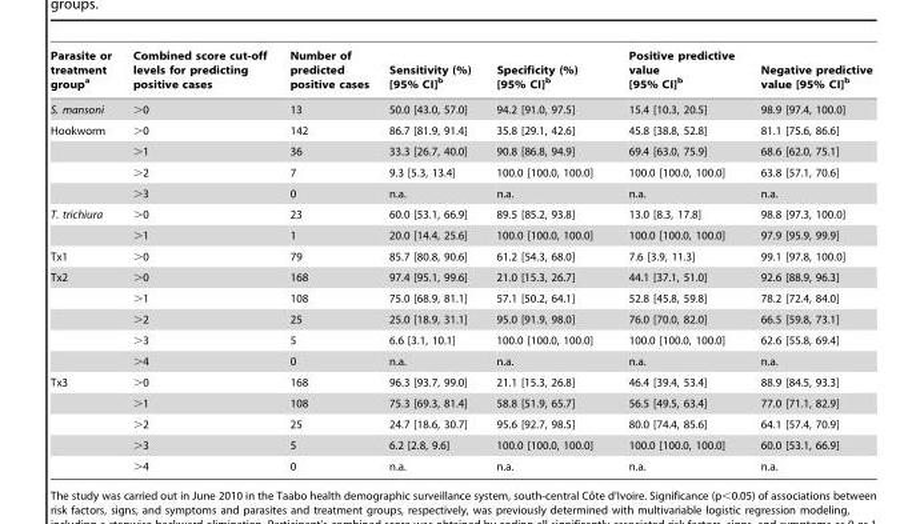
<table><thead><tr><td>Parasite or treatment group<sup>a</sup></td><td>Combined score cut-off levels for predicting positive cases</td><td>Number of predicted positive cases</td><td>Sensitivity (%) [95% CI]<sup>b</sup></td><td>Specificity (%) [95% CI]<sup>b</sup></td><td>Positive predictive value [95% CI]<sup>b</sup></td><td>Negative predictive value [95% CI]<sup>b</sup></td></tr></thead><tbody><tr><td>S. mansoni</td><td>&gt;0</td><td>13</td><td>50.0 [43.0, 57.0]</td><td>94.2 [91.0, 97.5]</td><td>15.4 [10.3, 20.5]</td><td>98.9 [97.4, 100.0]</td></tr><tr><td rowspan="4">Hookworm</td><td>&gt;0</td><td>142</td><td>86.7 [81.9, 91.4]</td><td>35.8 [29.1, 42.6]</td><td>45.8 [38.8, 52.8]</td><td>81.1 [75.6, 86.6]</td></tr><tr><td>&gt;1</td><td>36</td><td>33.3 [26.7, 40.0]</td><td>90.8 [86.8, 94.9]</td><td>69.4 [63.0, 75.9]</td><td>68.6 [62.0, 75.1]</td></tr><tr><td>&gt;2</td><td>7</td><td>9.3 [5.3, 13.4]</td><td>100.0 [100.0, 100.0]</td><td>100.0 [100.0, 100.0]</td><td>63.8 [57.1, 70.6]</td></tr><tr><td>&gt;3</td><td>0</td><td>n.a.</td><td>n.a.</td><td>n.a.</td><td>n.a.</td></tr><tr><td rowspan="2">T. trichiura</td><td>&gt;0</td><td>23</td><td>60.0 [53.1, 66.9]</td><td>89.5 [85.2, 93.8]</td><td>13.0 [8.3, 17.8]</td><td>98.8 [97.3, 100.0]</td></tr><tr><td>&gt;1</td><td>1</td><td>20.0 [14.4, 25.6]</td><td>100.0 [100.0, 100.0]</td><td>100.0 [100.0, 100.0]</td><td>97.9 [95.9, 99.9]</td></tr><tr><td>Tx1</td><td>&gt;0</td><td>79</td><td>85.7 [80.8, 90.6]</td><td>61.2 [54.3, 68.0]</td><td>7.6 [3.9, 11.3]</td><td>99.1 [97.8, 100.0]</td></tr><tr><td rowspan="5">Tx2</td><td>&gt;0</td><td>168</td><td>97.4 [95.1, 99.6]</td><td>21.0 [15.3, 26.7]</td><td>44.1 [37.1, 51.0]</td><td>92.6 [88.9, 96.3]</td></tr><tr><td>&gt;1</td><td>108</td><td>75.0 [68.9, 81.1]</td><td>57.1 [50.2, 64.1]</td><td>52.8 [45.8, 59.8]</td><td>78.2 [72.4, 84.0]</td></tr><tr><td>&gt;2</td><td>25</td><td>25.0 [18.9, 31.1]</td><td>95.0 [91.9, 98.0]</td><td>76.0 [70.0, 82.0]</td><td>66.5 [59.8, 73.1]</td></tr><tr><td>&gt;3</td><td>5</td><td>6.6 [3.1, 10.1]</td><td>100.0 [100.0, 100.0]</td><td>100.0 [100.0, 100.0]</td><td>62.6 [55.8, 69.4]</td></tr><tr><td>&gt;4</td><td>0</td><td>n.a.</td><td>n.a.</td><td>n.a.</td><td>n.a.</td></tr><tr><td rowspan="5">Tx3</td><td>&gt;0</td><td>168</td><td>96.3 [93.7, 99.0]</td><td>21.1 [15.3, 26.8]</td><td>46.4 [39.4, 53.4]</td><td>88.9 [84.5, 93.3]</td></tr><tr><td>&gt;1</td><td>108</td><td>75.3 [69.3, 81.4]</td><td>58.8 [51.9, 65.7]</td><td>56.5 [49.5, 63.4]</td><td>77.0 [71.1, 82.9]</td></tr><tr><td>&gt;2</td><td>25</td><td>24.7 [18.6, 30.7]</td><td>95.6 [92.7, 98.5]</td><td>80.0 [74.4, 85.6]</td><td>64.1 [57.4, 70.9]</td></tr><tr><td>&gt;3</td><td>5</td><td>6.2 [2.8, 9.6]</td><td>100.0 [100.0, 100.0]</td><td>100.0 [100.0, 100.0]</td><td>60.0 [53.1, 66.9]</td></tr><tr><td>&gt;4</td><td>0</td><td>n.a.</td><td>n.a.</td><td>n.a.</td><td>n.a.</td></tr></tbody></table>